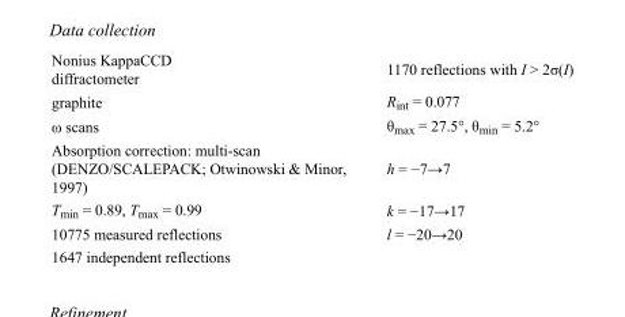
<table><tbody><tr><td>Nonius KappaCCD diffractometer</td><td>1170 reflections with I &gt; 2σ(I)</td></tr><tr><td>graphite</td><td>R<sub>int</sub> = 0.077</td></tr><tr><td>ω scans</td><td>θ<sub>max</sub> = 27.5°, θ<sub>min</sub> = 5.2°</td></tr><tr><td>Absorption correction: multi-scan (DENZO/SCALEPACK; Otwinowski &amp; Minor, 1997)</td><td>h = −7→7</td></tr><tr><td>T<sub>min</sub> = 0.89, T<sub>max</sub> = 0.99</td><td>k = −17→17</td></tr><tr><td>10775 measured reflections</td><td>l = −20→20</td></tr><tr><td>1647 independent reflections</td><td></td></tr></tbody></table>